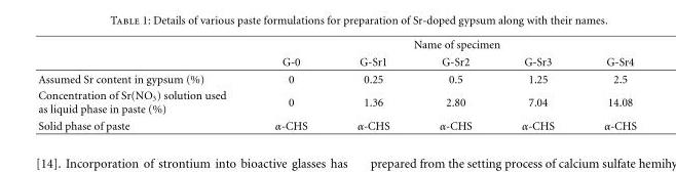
<table><thead><tr><td rowspan="2"></td><td colspan="5">Name of specimen</td></tr><tr><td>G-0</td><td>G-Sr1</td><td>G-Sr2</td><td>G-Sr3</td><td>G-Sr4</td></tr></thead><tbody><tr><td>Assumed Sr content in gypsum (%)</td><td>0</td><td>0.25</td><td>0.5</td><td>1.25</td><td>2.5</td></tr><tr><td>Concentration of Sr(NO<sub>3</sub>) solution used as liquid phase in paste (%)</td><td>0</td><td>1.36</td><td>2.80</td><td>7.04</td><td>14.08</td></tr><tr><td>Solid phase of paste</td><td>α-CHS</td><td>α-CHS</td><td>α-CHS</td><td>α-CHS</td><td>α-CHS</td></tr></tbody></table>